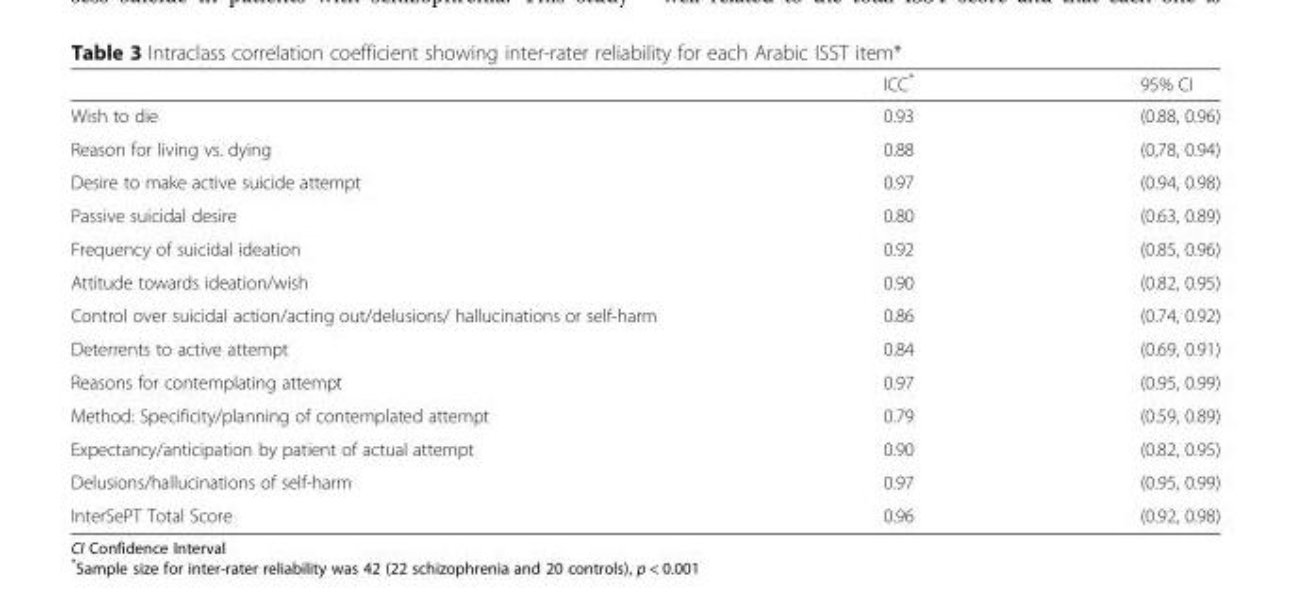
<table><thead><tr><td></td><td>ICC*</td><td>95% CI</td></tr></thead><tbody><tr><td>Wish to die</td><td>0.93</td><td>(0.88, 0.96)</td></tr><tr><td>Reason for living vs. dying</td><td>0.88</td><td>(0,78, 0.94)</td></tr><tr><td>Desire to make active suicide attempt</td><td>0.97</td><td>(0.94, 0.98)</td></tr><tr><td>Passive suicidal desire</td><td>0.80</td><td>(0.63, 0.89)</td></tr><tr><td>Frequency of suicidal ideation</td><td>0.92</td><td>(0.85, 0.96)</td></tr><tr><td>Attitude towards ideation/wish</td><td>0.90</td><td>(0.82, 0.95)</td></tr><tr><td>Control over suicidal action/acting out/delusions/ hallucinations or self-harm</td><td>0.86</td><td>(0.74, 0.92)</td></tr><tr><td>Deterrents to active attempt</td><td>0.84</td><td>(0.69, 0.91)</td></tr><tr><td>Reasons for contemplating attempt</td><td>0.97</td><td>(0.95, 0.99)</td></tr><tr><td>Method: Specificity/planning of contemplated attempt</td><td>0.79</td><td>(0.59, 0.89)</td></tr><tr><td>Expectancy/anticipation by patient of actual attempt</td><td>0.90</td><td>(0.82, 0.95)</td></tr><tr><td>Delusions/hallucinations of self-harm</td><td>0.97</td><td>(0.95, 0.99)</td></tr><tr><td>InterSePT Total Score</td><td>0.96</td><td>(0.92, 0.98)</td></tr></tbody></table>